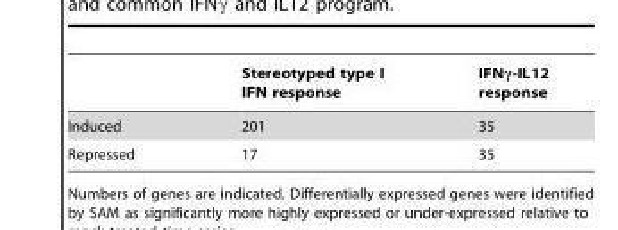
<table><thead><tr><td></td><td>Stereotyped type I IFN response</td><td>IFNγ-IL12 response</td></tr></thead><tbody><tr><td>Induced</td><td>201</td><td>35</td></tr><tr><td>Repressed</td><td>17</td><td>35</td></tr></tbody></table>